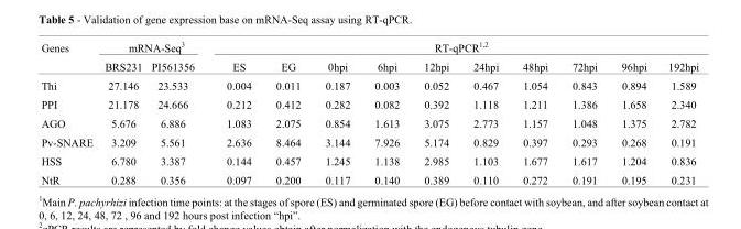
<table><thead><tr><td rowspan="2">Genes</td><td colspan="2">mRNA-Seq<sup>3</sup></td><td colspan="10">RT-qPCR<sup>1</sup>,<sup>2</sup></td></tr><tr><td>BRS231</td><td>PI561356</td><td>ES</td><td>EG</td><td>0hpi</td><td>6hpi</td><td>12hpi</td><td>24hpi</td><td>48hpi</td><td>72hpi</td><td>96hpi</td><td>192hpi</td></tr></thead><tbody><tr><td>Thi</td><td>27.146</td><td>23.533</td><td>0.004</td><td>0.011</td><td>0.187</td><td>0.003</td><td>0.052</td><td>0.467</td><td>1.054</td><td>0.843</td><td>0.894</td><td>1.589</td></tr><tr><td>PPI</td><td>21.178</td><td>24.666</td><td>0.212</td><td>0.412</td><td>0.282</td><td>0.082</td><td>0.392</td><td>1.118</td><td>1.211</td><td>1.386</td><td>1.658</td><td>2.340</td></tr><tr><td>AGO</td><td>5.676</td><td>6.886</td><td>1.083</td><td>2.075</td><td>0.854</td><td>1.613</td><td>3.075</td><td>2.773</td><td>1.157</td><td>1.048</td><td>1.375</td><td>2.782</td></tr><tr><td>Pv-SNARE</td><td>3.209</td><td>5.561</td><td>2.636</td><td>8.464</td><td>3.144</td><td>7.926</td><td>5.174</td><td>0.829</td><td>0.397</td><td>0.293</td><td>0.268</td><td>0.191</td></tr><tr><td>HSS</td><td>6.780</td><td>3.387</td><td>0.144</td><td>0.457</td><td>1.245</td><td>1.138</td><td>2.985</td><td>1.103</td><td>1.677</td><td>1.617</td><td>1.204</td><td>0.836</td></tr><tr><td>NtR</td><td>0.288</td><td>0.356</td><td>0.097</td><td>0.200</td><td>0.117</td><td>0.140</td><td>0.389</td><td>0.110</td><td>0.272</td><td>0.191</td><td>0.195</td><td>0.231</td></tr></tbody></table>